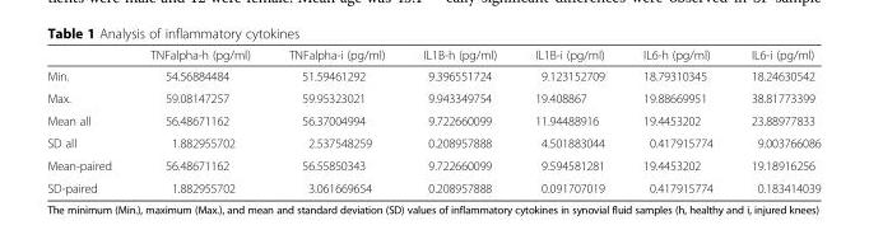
<table><thead><tr><td></td><td>TNFalpha-h (pg/ml)</td><td>TNFalpha-i (pg/ml)</td><td>IL1B-h (pg/ml)</td><td>IL1B-i (pg/ml)</td><td>IL6-h (pg/ml)</td><td>IL6-i (pg/ml)</td></tr></thead><tbody><tr><td>Min.</td><td>54.56884484</td><td>51.59461292</td><td>9.396551724</td><td>9.123152709</td><td>18.79310345</td><td>18.24630542</td></tr><tr><td>Max.</td><td>59.08147257</td><td>59.95323021</td><td>9.943349754</td><td>19.408867</td><td>19.88669951</td><td>38.81773399</td></tr><tr><td>Mean all</td><td>56.48671162</td><td>56.37004994</td><td>9.722660099</td><td>11.94488916</td><td>19.4453202</td><td>23.88977833</td></tr><tr><td>SD all</td><td>1.882955702</td><td>2.537548259</td><td>0.208957888</td><td>4.501883044</td><td>0.417915774</td><td>9.003766086</td></tr><tr><td>Mean-paired</td><td>56.48671162</td><td>56.55850343</td><td>9.722660099</td><td>9.594581281</td><td>19.4453202</td><td>19.18916256</td></tr><tr><td>SD-paired</td><td>1.882955702</td><td>3.061669654</td><td>0.208957888</td><td>0.091707019</td><td>0.417915774</td><td>0.183414039</td></tr></tbody></table>